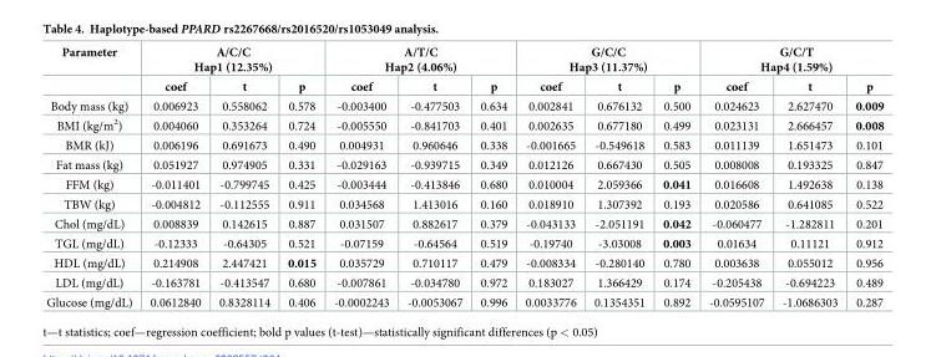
<table><thead><tr><td rowspan="2">Parameter</td><td colspan="3">A/C/C Hap1 (12.35%)</td><td colspan="3">A/T/C Hap2 (4.06%)</td><td colspan="3">G/C/C Hap3 (11.37%)</td><td colspan="3">G/C/T Hap4 (1.59%)</td></tr><tr><td>coef</td><td>t</td><td>p</td><td>coef</td><td>t</td><td>p</td><td>coef</td><td>t</td><td>p</td><td>coef</td><td>t</td><td>p</td></tr></thead><tbody><tr><td>Body mass (kg)</td><td>0.006923</td><td>0.558062</td><td>0.578</td><td>-0.003400</td><td>-0.477503</td><td>0.634</td><td>0.002841</td><td>0.676132</td><td>0.500</td><td>0.024623</td><td>2.627470</td><td>0.009</td></tr><tr><td>BMI (kg/m<sup>2</sup>)</td><td>0.004060</td><td>0.353264</td><td>0.724</td><td>-0.005550</td><td>-0.841703</td><td>0.401</td><td>0.002635</td><td>0.677180</td><td>0.499</td><td>0.023131</td><td>2.666457</td><td>0.008</td></tr><tr><td>BMR (kJ)</td><td>0.006196</td><td>0.691673</td><td>0.490</td><td>0.004931</td><td>0.960646</td><td>0.338</td><td>-0.001665</td><td>-0.549618</td><td>0.583</td><td>0.011139</td><td>1.651473</td><td>0.101</td></tr><tr><td>Fat mass (kg)</td><td>0.051927</td><td>0.974905</td><td>0.331</td><td>-0.029163</td><td>-0.939715</td><td>0.349</td><td>0.012126</td><td>0.667430</td><td>0.505</td><td>0.008008</td><td>0.193325</td><td>0.847</td></tr><tr><td>FFM (kg)</td><td>-0.011401</td><td>-0.799745</td><td>0.425</td><td>-0.003444</td><td>-0.413846</td><td>0.680</td><td>0.010004</td><td>2.059366</td><td>0.041</td><td>0.016608</td><td>1.492638</td><td>0.138</td></tr><tr><td>TBW (kg)</td><td>-0.004812</td><td>-0.112555</td><td>0.911</td><td>0.034568</td><td>1.413016</td><td>0.160</td><td>0.018910</td><td>1.307392</td><td>0.193</td><td>0.020586</td><td>0.641085</td><td>0.522</td></tr><tr><td>Chol (mg/dL)</td><td>0.008839</td><td>0.142615</td><td>0.887</td><td>0.031507</td><td>0.882617</td><td>0.379</td><td>-0.043133</td><td>-2.051191</td><td>0.042</td><td>-0.060477</td><td>-1.282811</td><td>0.201</td></tr><tr><td>TGL (mg/dL)</td><td>-0.12333</td><td>-0.64305</td><td>0.521</td><td>-0.07159</td><td>-0.64564</td><td>0.519</td><td>-0.19740</td><td>-3.03008</td><td>0.003</td><td>0.01634</td><td>0.11121</td><td>0.912</td></tr><tr><td>HDL (mg/dL)</td><td>0.214908</td><td>2.447421</td><td>0.015</td><td>0.035729</td><td>0.710117</td><td>0.479</td><td>-0.008334</td><td>-0.280140</td><td>0.780</td><td>0.003638</td><td>0.055012</td><td>0.956</td></tr><tr><td>LDL (mg/dL)</td><td>-0.163781</td><td>-0.413547</td><td>0.680</td><td>-0.007861</td><td>-0.034780</td><td>0.972</td><td>0.183027</td><td>1.366429</td><td>0.174</td><td>-0.205438</td><td>-0.694223</td><td>0.489</td></tr><tr><td>Glucose (mg/dL)</td><td>0.0612840</td><td>0.8328114</td><td>0.406</td><td>-0.0002243</td><td>-0.0053067</td><td>0.996</td><td>0.0033776</td><td>0.1354351</td><td>0.892</td><td>-0.0595107</td><td>-1.0686303</td><td>0.287</td></tr></tbody></table>